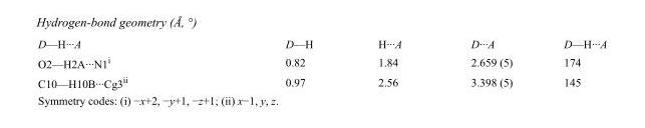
<table><tbody><tr><td>D—H···A</td><td>D—H</td><td>H···A</td><td>D···A</td><td>D—H···A</td></tr><tr><td>O2—H2A···N1<sup>i</sup></td><td>0.82</td><td>1.84</td><td>2.659 (5)</td><td>174</td></tr><tr><td>C10—H10B···Cg3<sup>ii</sup></td><td>0.97</td><td>2.56</td><td>3.398 (5)</td><td>145</td></tr></tbody></table>